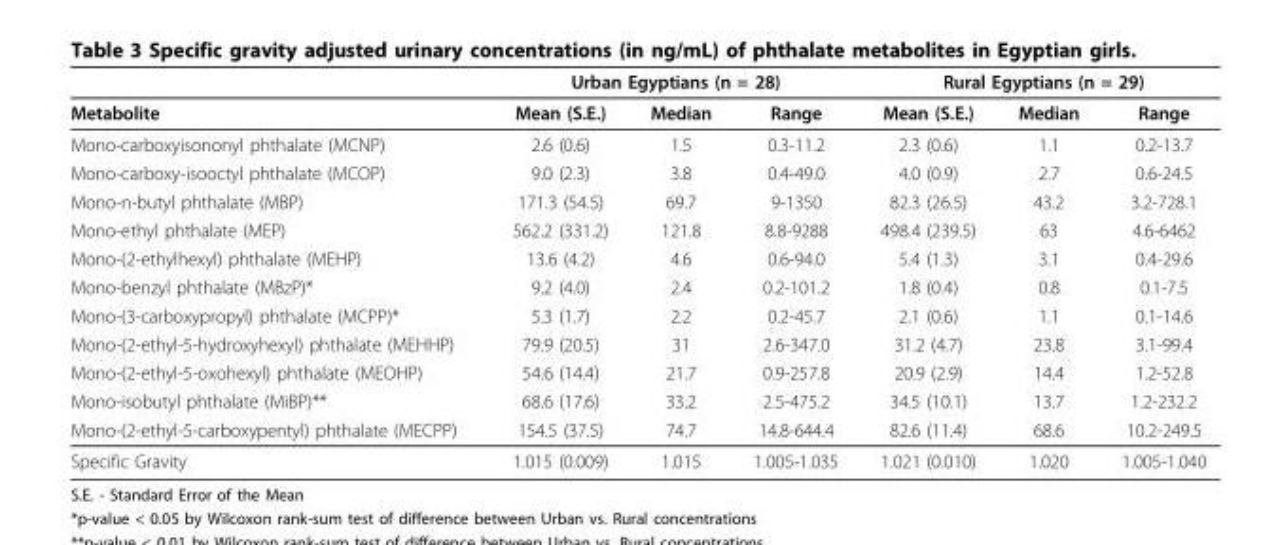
<table><thead><tr><td rowspan="2">Metabolite</td><td colspan="3">Urban Egyptians (n = 28)</td><td colspan="3">Rural Egyptians (n = 29)</td></tr><tr><td>Mean (S.E.)</td><td>Median</td><td>Range</td><td>Mean (S.E.)</td><td>Median</td><td>Range</td></tr></thead><tbody><tr><td>Mono-carboxyisononyl phthalate (MCNP)</td><td>2.6 (0.6)</td><td>1.5</td><td>0.3-11.2</td><td>2.3 (0.6)</td><td>1.1</td><td>0.2-13.7</td></tr><tr><td>Mono-carboxy-isooctyl phthalate (MCOP)</td><td>9.0 (2.3)</td><td>3.8</td><td>0.4-49.0</td><td>4.0 (0.9)</td><td>2.7</td><td>0.6-24.5</td></tr><tr><td>Mono-n-butyl phthalate (MBP)</td><td>171.3 (54.5)</td><td>69.7</td><td>9-1350</td><td>82.3 (26.5)</td><td>43.2</td><td>3.2-728.1</td></tr><tr><td>Mono-ethyl phthalate (MEP)</td><td>562.2 (331.2)</td><td>121.8</td><td>8.8-9288</td><td>498.4 (239.5)</td><td>63</td><td>4.6-6462</td></tr><tr><td>Mono-(2-ethylhexyl) phthalate (MEHP)</td><td>13.6 (4.2)</td><td>4.6</td><td>0.6-94.0</td><td>5.4 (1.3)</td><td>3.1</td><td>0.4-29.6</td></tr><tr><td>Mono-benzyl phthalate (MBzP)*</td><td>9.2 (4.0)</td><td>2.4</td><td>0.2-101.2</td><td>1.8 (0.4)</td><td>0.8</td><td>0.1-7.5</td></tr><tr><td>Mono-(3-carboxypropyl) phthalate (MCPP)*</td><td>5.3 (1.7)</td><td>2.2</td><td>0.2-45.7</td><td>2.1 (0.6)</td><td>1.1</td><td>0.1-14.6</td></tr><tr><td>Mono-(2-ethyl-5-hydroxyhexyl) phthalate (MEHHP)</td><td>79.9 (20.5)</td><td>31</td><td>2.6-347.0</td><td>31.2 (4.7)</td><td>23.8</td><td>3.1-99.4</td></tr><tr><td>Mono-(2-ethyl-5-oxohexyl) phthalate (MEOHP)</td><td>54.6 (14.4)</td><td>21.7</td><td>0.9-257.8</td><td>20.9 (2.9)</td><td>14.4</td><td>1.2-52.8</td></tr><tr><td>Mono-isobutyl phthalate (MiBP)**</td><td>68.6 (17.6)</td><td>33.2</td><td>2.5-475.2</td><td>34.5 (10.1)</td><td>13.7</td><td>1.2-232.2</td></tr><tr><td>Mono-(2-ethyl-5-carboxypentyl) phthalate (MECPP)</td><td>154.5 (37.5)</td><td>74.7</td><td>14.8-644.4</td><td>82.6 (11.4)</td><td>68.6</td><td>10.2-249.5</td></tr><tr><td>Specific Gravity</td><td>1.015 (0.009)</td><td>1.015</td><td>1.005-1.035</td><td>1.021 (0.010)</td><td>1.020</td><td>1.005-1.040</td></tr></tbody></table>